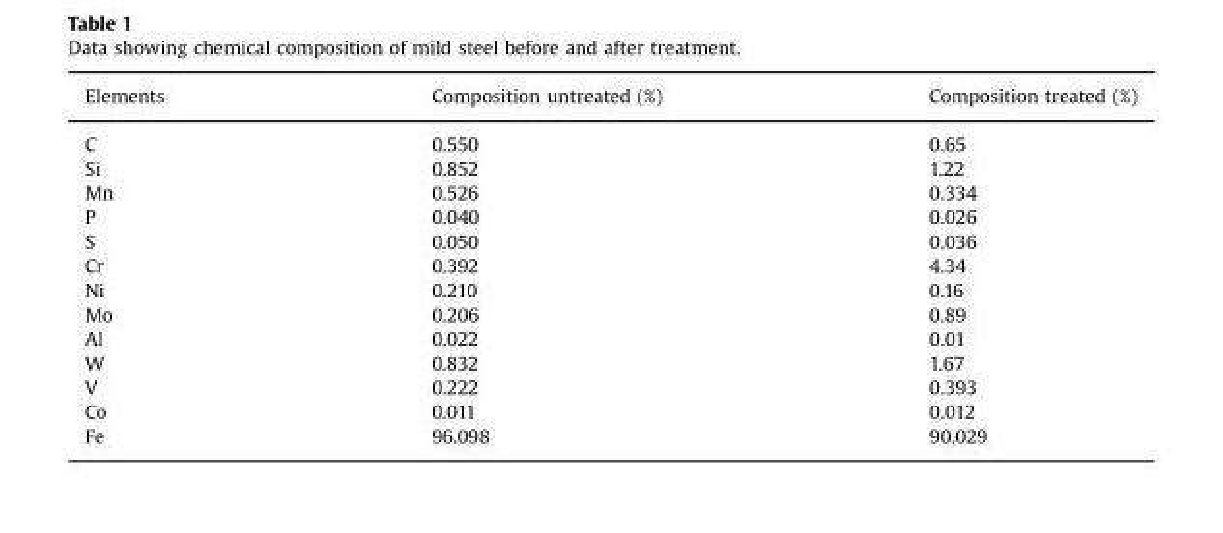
<table><thead><tr><td>Elements</td><td>Composition untreated (%)</td><td>Composition treated (%)</td></tr></thead><tbody><tr><td>C</td><td>0.550</td><td>0.65</td></tr><tr><td>Si</td><td>0.852</td><td>1.22</td></tr><tr><td>Mn</td><td>0.526</td><td>0.334</td></tr><tr><td>P</td><td>0.040</td><td>0.026</td></tr><tr><td>S</td><td>0.050</td><td>0.036</td></tr><tr><td>Cr</td><td>0.392</td><td>4.34</td></tr><tr><td>Ni</td><td>0.210</td><td>0.16</td></tr><tr><td>Mo</td><td>0.206</td><td>0.89</td></tr><tr><td>Al</td><td>0.022</td><td>0.01</td></tr><tr><td>W</td><td>0.832</td><td>1.67</td></tr><tr><td>V</td><td>0.222</td><td>0.393</td></tr><tr><td>Co</td><td>0.011</td><td>0.012</td></tr><tr><td>Fe</td><td>96.098</td><td>90,029</td></tr></tbody></table>